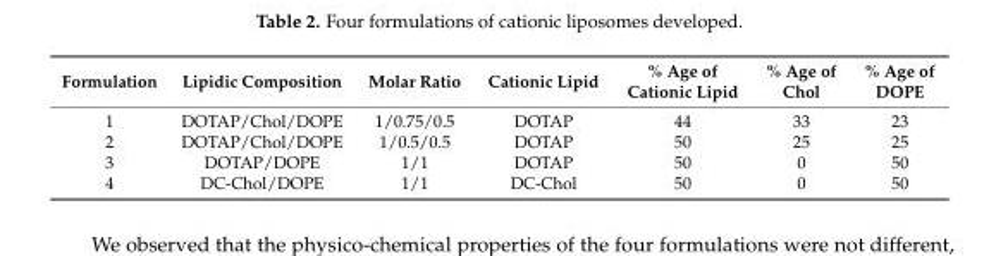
<table><thead><tr><td>Formulation</td><td>Lipidic Composition</td><td>Molar Ratio</td><td>Cationic Lipid</td><td>% Age of Cationic Lipid</td><td>% Age of Chol</td><td>% Age of DOPE</td></tr></thead><tbody><tr><td>1</td><td>DOTAP/Chol/DOPE</td><td>1/0.75/0.5</td><td>DOTAP</td><td>44</td><td>33</td><td>23</td></tr><tr><td>2</td><td>DOTAP/Chol/DOPE</td><td>1/0.5/0.5</td><td>DOTAP</td><td>50</td><td>25</td><td>25</td></tr><tr><td>3</td><td>DOTAP/DOPE</td><td>1/1</td><td>DOTAP</td><td>50</td><td>0</td><td>50</td></tr><tr><td>4</td><td>DC-Chol/DOPE</td><td>1/1</td><td>DC-Chol</td><td>50</td><td>0</td><td>50</td></tr></tbody></table>